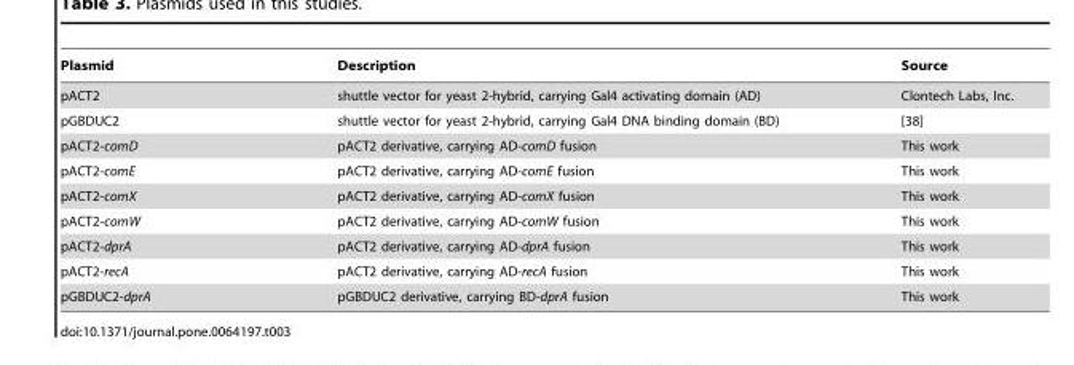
<table><thead><tr><td>Plasmid</td><td>Description</td><td>Source</td></tr></thead><tbody><tr><td>pACT2</td><td>shuttle vector for yeast 2-hybrid, carrying Gal4 activating domain (AD)</td><td>Clontech Labs, Inc.</td></tr><tr><td>pGBDUC2</td><td>shuttle vector for yeast 2-hybrid, carrying Gal4 DNA binding domain (BD)</td><td>[38]</td></tr><tr><td>pACT2-comD</td><td>pACT2 derivative, carrying AD-comD fusion</td><td>This work</td></tr><tr><td>pACT2-comE</td><td>pACT2 derivative, carrying AD-comE fusion</td><td>This work</td></tr><tr><td>pACT2-comX</td><td>pACT2 derivative, carrying AD-comX fusion</td><td>This work</td></tr><tr><td>pACT2-comW</td><td>pACT2 derivative, carrying AD-comW fusion</td><td>This work</td></tr><tr><td>pACT2-dprA</td><td>pACT2 derivative, carrying AD-dprA fusion</td><td>This work</td></tr><tr><td>pACT2-recA</td><td>pACT2 derivative, carrying AD-recA fusion</td><td>This work</td></tr><tr><td>pGBDUC2-dprA</td><td>pGBDUC2 derivative, carrying BD-dprA fusion</td><td>This work</td></tr></tbody></table>